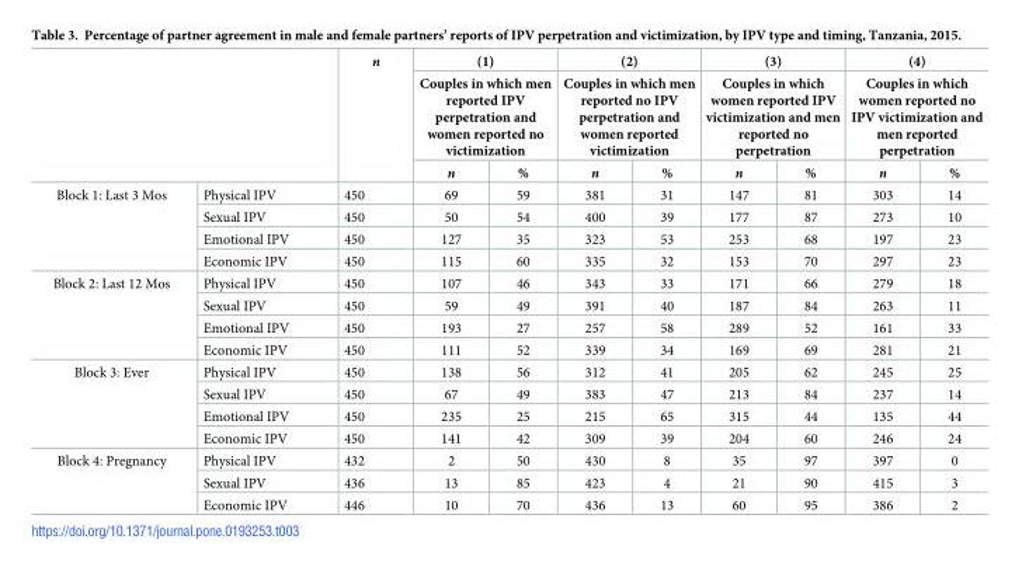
<table><thead><tr><td rowspan="3"></td><td rowspan="3"></td><td rowspan="3">n</td><td rowspan="2" colspan="2">(1) Couples in which men reported IPV perpetration and women reported no victimization</td><td rowspan="2" colspan="2">(2) Couples in which men reported no IPV perpetration and women reported victimization</td><td rowspan="2" colspan="2">(3) Couples in which women reported IPV victimization and men reported no perpetration</td><td rowspan="2" colspan="2">(4) Couples in which women reported no IPV victimization and men reported perpetration</td></tr><tr></tr><tr><td>n</td><td>%</td><td>n</td><td>%</td><td>n</td><td>%</td><td>n</td><td>%</td></tr></thead><tbody><tr><td rowspan="4">Block 1: Last 3 Mos</td><td>Physical IPV</td><td>450</td><td>69</td><td>59</td><td>381</td><td>31</td><td>147</td><td>81</td><td>303</td><td>14</td></tr><tr><td>Sexual IPV</td><td>450</td><td>50</td><td>54</td><td>400</td><td>39</td><td>177</td><td>87</td><td>273</td><td>10</td></tr><tr><td>Emotional IPV</td><td>450</td><td>127</td><td>35</td><td>323</td><td>53</td><td>253</td><td>68</td><td>197</td><td>23</td></tr><tr><td>Economic IPV</td><td>450</td><td>115</td><td>60</td><td>335</td><td>32</td><td>153</td><td>70</td><td>297</td><td>23</td></tr><tr><td rowspan="4">Block 2: Last 12 Mos</td><td>Physical IPV</td><td>450</td><td>107</td><td>46</td><td>343</td><td>33</td><td>171</td><td>66</td><td>279</td><td>18</td></tr><tr><td>Sexual IPV</td><td>450</td><td>59</td><td>49</td><td>391</td><td>40</td><td>187</td><td>84</td><td>263</td><td>11</td></tr><tr><td>Emotional IPV</td><td>450</td><td>193</td><td>27</td><td>257</td><td>58</td><td>289</td><td>52</td><td>161</td><td>33</td></tr><tr><td>Economic IPV</td><td>450</td><td>111</td><td>52</td><td>339</td><td>34</td><td>169</td><td>69</td><td>281</td><td>21</td></tr><tr><td rowspan="4">Block 3: Ever</td><td>Physical IPV</td><td>450</td><td>138</td><td>56</td><td>312</td><td>41</td><td>205</td><td>62</td><td>245</td><td>25</td></tr><tr><td>Sexual IPV</td><td>450</td><td>67</td><td>49</td><td>383</td><td>47</td><td>213</td><td>84</td><td>237</td><td>14</td></tr><tr><td>Emotional IPV</td><td>450</td><td>235</td><td>25</td><td>215</td><td>65</td><td>315</td><td>44</td><td>135</td><td>44</td></tr><tr><td>Economic IPV</td><td>450</td><td>141</td><td>42</td><td>309</td><td>39</td><td>204</td><td>60</td><td>246</td><td>24</td></tr><tr><td rowspan="3">Block 4: Pregnancy</td><td>Physical IPV</td><td>432</td><td>2</td><td>50</td><td>430</td><td>8</td><td>35</td><td>97</td><td>397</td><td>0</td></tr><tr><td>Sexual IPV</td><td>436</td><td>13</td><td>85</td><td>423</td><td>4</td><td>21</td><td>90</td><td>415</td><td>3</td></tr><tr><td>Economic IPV</td><td>446</td><td>10</td><td>70</td><td>436</td><td>13</td><td>60</td><td>95</td><td>386</td><td>2</td></tr></tbody></table>